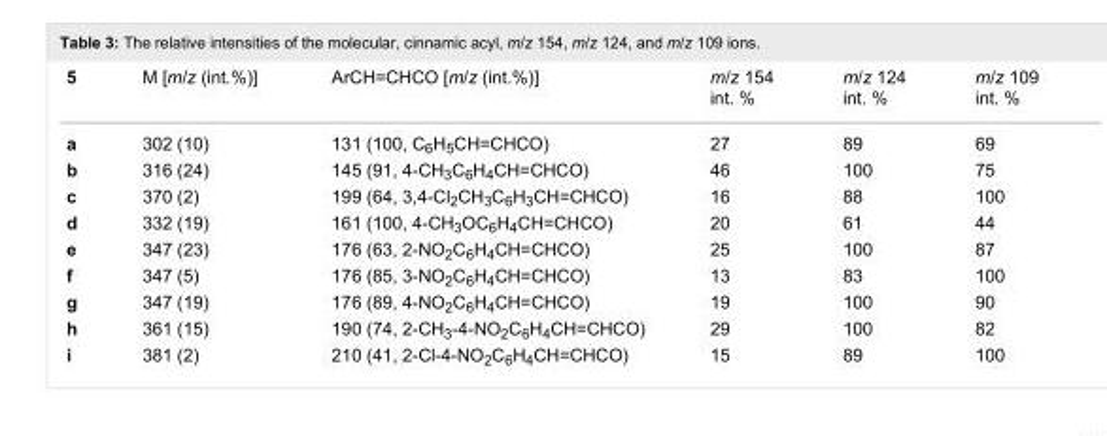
<table><tbody><tr><td>5</td><td>M [m/z (int.%)]</td><td>ArCH=CHCO [m/z (int.%)]</td><td>m/z 154 int. %</td><td>m/z 124 int. %</td><td>m/z 109 int. %</td></tr><tr><td>a</td><td>302 (10)</td><td>131 (100, C<sub>6</sub>H<sub>5</sub>CH=CHCO)</td><td>27</td><td>89</td><td>69</td></tr><tr><td>b</td><td>316 (24)</td><td>145 (91, 4-CH<sub>3</sub>C<sub>6</sub>H<sub>4</sub>CH=CHCO)</td><td>46</td><td>100</td><td>75</td></tr><tr><td>c</td><td>370 (2)</td><td>199 (64, 3,4-Cl<sub>2</sub>CH<sub>3</sub>C<sub>6</sub>H<sub>3</sub>CH=CHCO)</td><td>16</td><td>88</td><td>100</td></tr><tr><td>d</td><td>332 (19)</td><td>161 (100, 4-CH<sub>3</sub>OC<sub>6</sub>H<sub>4</sub>CH=CHCO)</td><td>20</td><td>61</td><td>44</td></tr><tr><td>e</td><td>347 (23)</td><td>176 (63, 2-NO<sub>2</sub>C<sub>6</sub>H<sub>4</sub>CH=CHCO)</td><td>25</td><td>100</td><td>87</td></tr><tr><td>f</td><td>347 (5)</td><td>176 (85, 3-NO<sub>2</sub>C<sub>6</sub>H<sub>4</sub>CH=CHCO)</td><td>13</td><td>83</td><td>100</td></tr><tr><td>g</td><td>347 (19)</td><td>176 (89, 4-NO<sub>2</sub>C<sub>6</sub>H<sub>4</sub>CH=CHCO)</td><td>19</td><td>100</td><td>90</td></tr><tr><td>h</td><td>361 (15)</td><td>190 (74, 2-CH<sub>3</sub>-4-NO<sub>2</sub>C<sub>6</sub>H<sub>4</sub>CH=CHCO)</td><td>29</td><td>100</td><td>82</td></tr><tr><td>i</td><td>381 (2)</td><td>210 (41, 2-Cl-4-NO<sub>2</sub>C<sub>6</sub>H<sub>4</sub>CH=CHCO)</td><td>15</td><td>89</td><td>100</td></tr></tbody></table>